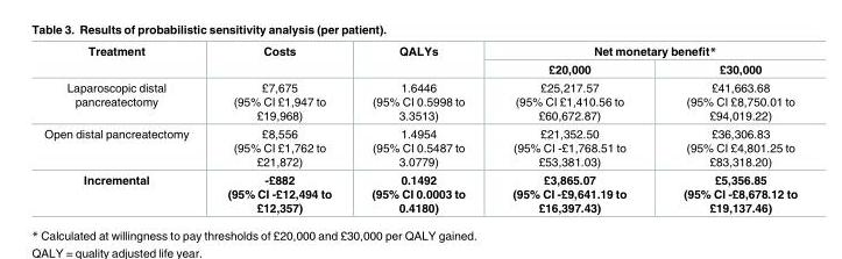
<table><thead><tr><td rowspan="2">Treatment</td><td rowspan="2">Costs</td><td rowspan="2">QALYs</td><td colspan="2">Net monetary benefit*</td></tr><tr><td>£20,000</td><td>£30,000</td></tr></thead><tbody><tr><td>Laparoscopic distal pancreatectomy</td><td>£7,675 (95% CI £1,947 to £19,968)</td><td>1.6446 (95% CI 0.5998 to 3.3513)</td><td>£25,217.57 (95% CI £1,410.56 to £60,672.87)</td><td>£41,663.68 (95% CI £8,750.01 to £94,019.22)</td></tr><tr><td>Open distal pancreatectomy</td><td>£8,556 (95% CI £1,762 to £21,872)</td><td>1.4954 (95% CI 0.5487 to 3.0779)</td><td>£21,352.50 (95% CI -£1,768.51 to £53,381.03)</td><td>£36,306.83 (95% CI £4,801.25 to £83,318.20)</td></tr><tr><td>Incremental</td><td>-£882 (95% CI -£12,494 to £12,357)</td><td>0.1492 (95% CI 0.0003 to 0.4180)</td><td>£3,865.07 (95% CI -£9,641.19 to £16,397.43)</td><td>£5,356.85 (95% CI -£8,678.12 to £19,137.46)</td></tr></tbody></table>